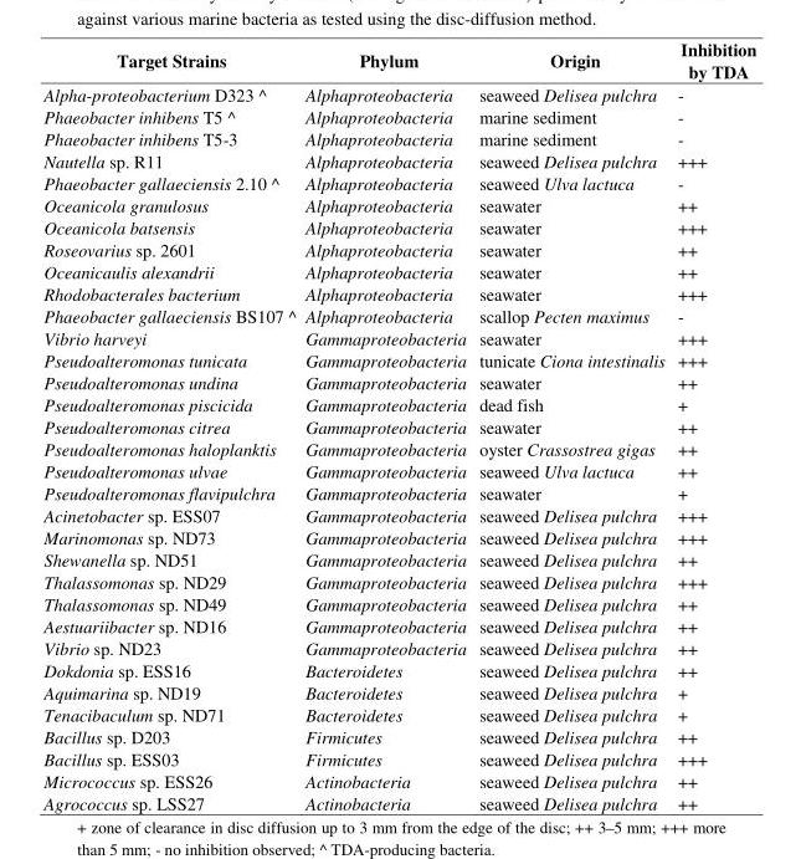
<table><thead><tr><td>Target Strains</td><td>Phylum</td><td>Origin</td><td>Inhibition by TDA</td></tr></thead><tbody><tr><td>Alpha-proteobacterium D323 ^</td><td>Alphaproteobacteria</td><td>seaweed Delisea pulchra</td><td>-</td></tr><tr><td>Phaeobacter inhibens T5 ^</td><td>Alphaproteobacteria</td><td>marine sediment</td><td>-</td></tr><tr><td>Phaeobacter inhibens T5-3</td><td>Alphaproteobacteria</td><td>marine sediment</td><td>-</td></tr><tr><td>Nautella sp. R11</td><td>Alphaproteobacteria</td><td>seaweed Delisea pulchra</td><td>+++</td></tr><tr><td>Phaeobacter gallaeciensis 2.10 ^</td><td>Alphaproteobacteria</td><td>seaweed Ulva lactuca</td><td>-</td></tr><tr><td>Oceanicola granulosus</td><td>Alphaproteobacteria</td><td>seawater</td><td>++</td></tr><tr><td>Oceanicola batsensis</td><td>Alphaproteobacteria</td><td>seawater</td><td>+++</td></tr><tr><td>Roseovarius sp. 2601</td><td>Alphaproteobacteria</td><td>seawater</td><td>++</td></tr><tr><td>Oceanicaulis alexandrii</td><td>Alphaproteobacteria</td><td>seawater</td><td>++</td></tr><tr><td>Rhodobacterales bacterium</td><td>Alphaproteobacteria</td><td>seawater</td><td>+++</td></tr><tr><td>Phaeobacter gallaeciensis BS107 ^</td><td>Alphaproteobacteria</td><td>scallop Pecten maximus</td><td>-</td></tr><tr><td>Vibrio harveyi</td><td>Gammaproteobacteria</td><td>seawater</td><td>+++</td></tr><tr><td>Pseudoalteromonas tunicata</td><td>Gammaproteobacteria</td><td>tunicate Ciona intestinalis</td><td>+++</td></tr><tr><td>Pseudoalteromonas undina</td><td>Gammaproteobacteria</td><td>seawater</td><td>++</td></tr><tr><td>Pseudoalteromonas piscicida</td><td>Gammaproteobacteria</td><td>dead fish</td><td>+</td></tr><tr><td>Pseudoalteromonas citrea</td><td>Gammaproteobacteria</td><td>seawater</td><td>++</td></tr><tr><td>Pseudoalteromonas haloplanktis</td><td>Gammaproteobacteria</td><td>oyster Crassostrea gigas</td><td>++</td></tr><tr><td>Pseudoalteromonas ulvae</td><td>Gammaproteobacteria</td><td>seaweed Ulva lactuca</td><td>++</td></tr><tr><td>Pseudoalteromonas flavipulchra</td><td>Gammaproteobacteria</td><td>seawater</td><td>+</td></tr><tr><td>Acinetobacter sp. ESS07</td><td>Gammaproteobacteria</td><td>seaweed Delisea pulchra</td><td>+++</td></tr><tr><td>Marinomonas sp. ND73</td><td>Gammaproteobacteria</td><td>seaweed Delisea pulchra</td><td>+++</td></tr><tr><td>Shewanella sp. ND51</td><td>Gammaproteobacteria</td><td>seaweed Delisea pulchra</td><td>++</td></tr><tr><td>Thalassomonas sp. ND29</td><td>Gammaproteobacteria</td><td>seaweed Delisea pulchra</td><td>+++</td></tr><tr><td>Thalassomonas sp. ND49</td><td>Gammaproteobacteria</td><td>seaweed Delisea pulchra</td><td>++</td></tr><tr><td>Aestuariibacter sp. ND16</td><td>Gammaproteobacteria</td><td>seaweed Delisea pulchra</td><td>++</td></tr><tr><td>Vibrio sp. ND23</td><td>Gammaproteobacteria</td><td>seaweed Delisea pulchra</td><td>++</td></tr><tr><td>Dokdonia sp. ESS16</td><td>Bacteroidetes</td><td>seaweed Delisea pulchra</td><td>++</td></tr><tr><td>Aquimarina sp. ND19</td><td>Bacteroidetes</td><td>seaweed Delisea pulchra</td><td>+</td></tr><tr><td>Tenacibaculum sp. ND71</td><td>Bacteroidetes</td><td>seaweed Delisea pulchra</td><td>+</td></tr><tr><td>Bacillus sp. D203</td><td>Firmicutes</td><td>seaweed Delisea pulchra</td><td>++</td></tr><tr><td>Bacillus sp. ESS03</td><td>Firmicutes</td><td>seaweed Delisea pulchra</td><td>+++</td></tr><tr><td>Micrococcus sp. ESS26</td><td>Actinobacteria</td><td>seaweed Delisea pulchra</td><td>++</td></tr><tr><td>Agrococcus sp. LSS27</td><td>Actinobacteria</td><td>seaweed Delisea pulchra</td><td>++</td></tr></tbody></table>